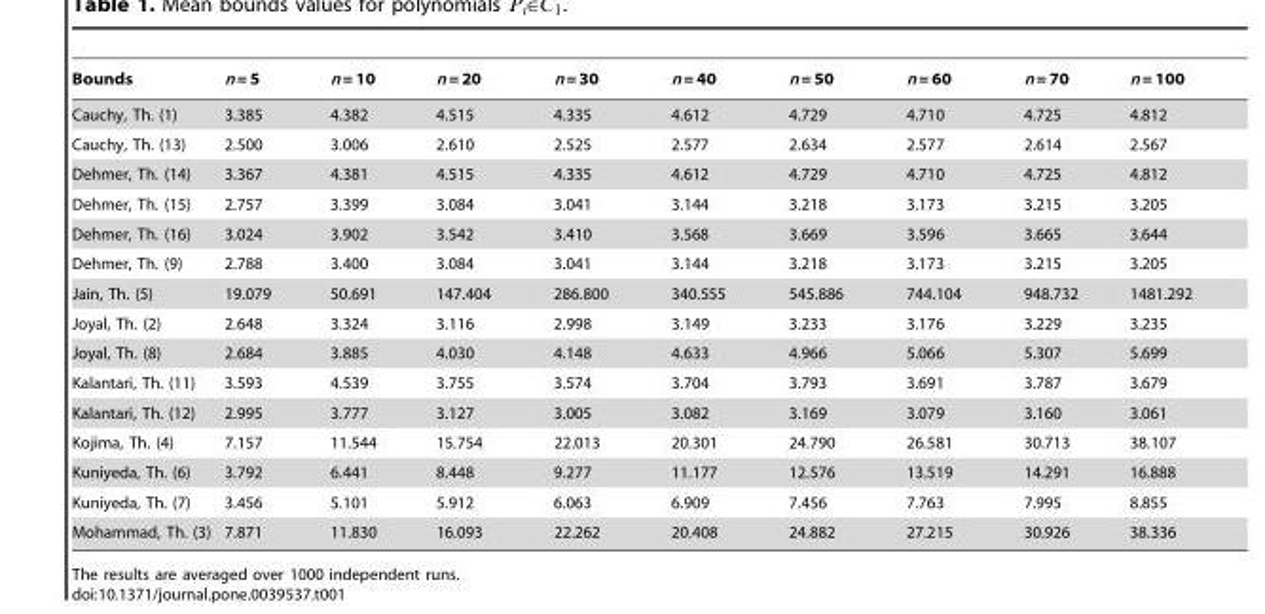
<table><thead><tr><td>Bounds</td><td>n = 5</td><td>n = 10</td><td>n = 20</td><td>n = 30</td><td>n = 40</td><td>n = 50</td><td>n = 60</td><td>n = 70</td><td>n = 100</td></tr></thead><tbody><tr><td>Cauchy, Th. (1)</td><td>3.385</td><td>4.382</td><td>4.515</td><td>4.335</td><td>4.612</td><td>4.729</td><td>4.710</td><td>4.725</td><td>4.812</td></tr><tr><td>Cauchy, Th. (13)</td><td>2.500</td><td>3.006</td><td>2.610</td><td>2.525</td><td>2.577</td><td>2.634</td><td>2.577</td><td>2.614</td><td>2.567</td></tr><tr><td>Dehmer, Th. (14)</td><td>3.367</td><td>4.381</td><td>4.515</td><td>4.335</td><td>4.612</td><td>4.729</td><td>4.710</td><td>4.725</td><td>4.812</td></tr><tr><td>Dehmer, Th. (15)</td><td>2.757</td><td>3.399</td><td>3.084</td><td>3.041</td><td>3.144</td><td>3.218</td><td>3.173</td><td>3.215</td><td>3.205</td></tr><tr><td>Dehmer, Th. (16)</td><td>3.024</td><td>3.902</td><td>3.542</td><td>3.410</td><td>3.568</td><td>3.669</td><td>3.596</td><td>3.665</td><td>3.644</td></tr><tr><td>Dehmer, Th. (9)</td><td>2.788</td><td>3.400</td><td>3.084</td><td>3.041</td><td>3.144</td><td>3.218</td><td>3.173</td><td>3.215</td><td>3.205</td></tr><tr><td>Jain, Th. (5)</td><td>19.079</td><td>50.691</td><td>147.404</td><td>286.800</td><td>340.555</td><td>545.886</td><td>744.104</td><td>948.732</td><td>1481.292</td></tr><tr><td>Joyal, Th. (2)</td><td>2.648</td><td>3.324</td><td>3.116</td><td>2.998</td><td>3.149</td><td>3.233</td><td>3.176</td><td>3.229</td><td>3.235</td></tr><tr><td>Joyal, Th. (8)</td><td>2.684</td><td>3.885</td><td>4.030</td><td>4.148</td><td>4.633</td><td>4.966</td><td>5.066</td><td>5.307</td><td>5.699</td></tr><tr><td>Kalantari, Th. (11)</td><td>3.593</td><td>4.539</td><td>3.755</td><td>3.574</td><td>3.704</td><td>3.793</td><td>3.691</td><td>3.787</td><td>3.679</td></tr><tr><td>Kalantari, Th. (12)</td><td>2.995</td><td>3.777</td><td>3.127</td><td>3.005</td><td>3.082</td><td>3.169</td><td>3.079</td><td>3.160</td><td>3.061</td></tr><tr><td>Kojima, Th. (4)</td><td>7.157</td><td>11.544</td><td>15.754</td><td>22.013</td><td>20.301</td><td>24.790</td><td>26.581</td><td>30.713</td><td>38.107</td></tr><tr><td>Kuniyeda, Th. (6)</td><td>3.792</td><td>6.441</td><td>8.448</td><td>9.277</td><td>11.177</td><td>12.576</td><td>13.519</td><td>14.291</td><td>16.888</td></tr><tr><td>Kuniyeda, Th. (7)</td><td>3.456</td><td>5.101</td><td>5.912</td><td>6.063</td><td>6.909</td><td>7.456</td><td>7.763</td><td>7.995</td><td>8.855</td></tr><tr><td>Mohammad, Th. (3)</td><td>7.871</td><td>11.830</td><td>16.093</td><td>22.262</td><td>20.408</td><td>24.882</td><td>27.215</td><td>30.926</td><td>38.336</td></tr></tbody></table>